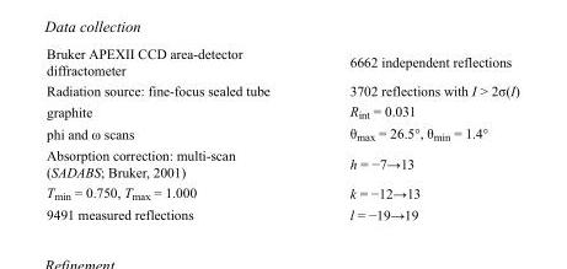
<table><tbody><tr><td>Bruker APEXII CCD area-detector diffractometer</td><td>6662 independent reflections</td></tr><tr><td>Radiation source: fine-focus sealed tube</td><td>3702 reflections with I &gt; 2σ(I)</td></tr><tr><td>graphite</td><td>R<sub>int</sub> = 0.031</td></tr><tr><td>phi and ω scans</td><td>θ<sub>max</sub> = 26.5°, θ<sub>min</sub> = 1.4°</td></tr><tr><td>Absorption correction: multi-scan (SADABS; Bruker, 2001)</td><td>h = −7→13</td></tr><tr><td>T<sub>min</sub> = 0.750, T<sub>max</sub> = 1.000</td><td>k = −12→13</td></tr><tr><td>9491 measured reflections</td><td>l = −19→19</td></tr></tbody></table>